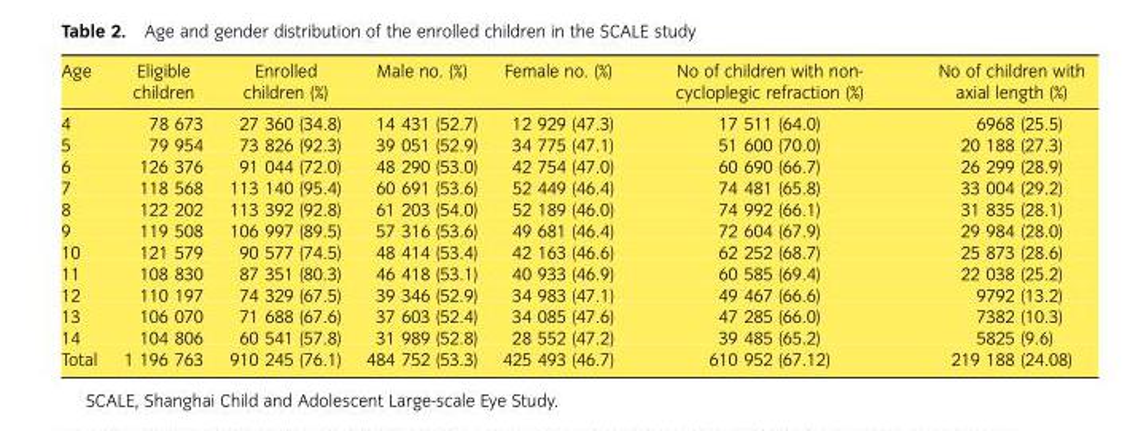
<table><thead><tr><td>Age</td><td>Eligible children</td><td>Enrolled children (%)</td><td>Male no. (%)</td><td>Female no. (%)</td><td>No of children with non- cycloplegic refraction (%)</td><td>No of children with axial length (%)</td></tr></thead><tbody><tr><td>4</td><td>78 673</td><td>27 360 (34.8)</td><td>14 431 (52.7)</td><td>12 929 (47.3)</td><td>17 511 (64.0)</td><td>6968 (25.5)</td></tr><tr><td>5</td><td>79 954</td><td>73 826 (92.3)</td><td>39 051 (52.9)</td><td>34 775 (47.1)</td><td>51 600 (70.0)</td><td>20 188 (27.3)</td></tr><tr><td>6</td><td>126 376</td><td>91 044 (72.0)</td><td>48 290 (53.0)</td><td>42 754 (47.0)</td><td>60 690 (66.7)</td><td>26 299 (28.9)</td></tr><tr><td>7</td><td>118 568</td><td>113 140 (95.4)</td><td>60 691 (53.6)</td><td>52 449 (46.4)</td><td>74 481 (65.8)</td><td>33 004 (29.2)</td></tr><tr><td>8</td><td>122 202</td><td>113 392 (92.8)</td><td>61 203 (54.0)</td><td>52 189 (46.0)</td><td>74 992 (66.1)</td><td>31 835 (28.1)</td></tr><tr><td>9</td><td>119 508</td><td>106 997 (89.5)</td><td>57 316 (53.6)</td><td>49 681 (46.4)</td><td>72 604 (67.9)</td><td>29 984 (28.0)</td></tr><tr><td>10</td><td>121 579</td><td>90 577 (74.5)</td><td>48 414 (53.4)</td><td>42 163 (46.6)</td><td>62 252 (68.7)</td><td>25 873 (28.6)</td></tr><tr><td>11</td><td>108 830</td><td>87 351 (80.3)</td><td>46 418 (53.1)</td><td>40 933 (46.9)</td><td>60 585 (69.4)</td><td>22 038 (25.2)</td></tr><tr><td>12</td><td>110 197</td><td>74 329 (67.5)</td><td>39 346 (52.9)</td><td>34 983 (47.1)</td><td>49 467 (66.6)</td><td>9792 (13.2)</td></tr><tr><td>13</td><td>106 070</td><td>71 688 (67.6)</td><td>37 603 (52.4)</td><td>34 085 (47.6)</td><td>47 285 (66.0)</td><td>7382 (10.3)</td></tr><tr><td>14</td><td>104 806</td><td>60 541 (57.8)</td><td>31 989 (52.8)</td><td>28 552 (47.2)</td><td>39 485 (65.2)</td><td>5825 (9.6)</td></tr><tr><td>Total</td><td>1 196 763</td><td>910 245 (76.1)</td><td>484 752 (53.3)</td><td>425 493 (46.7)</td><td>610 952 (67.12)</td><td>219 188 (24.08)</td></tr></tbody></table>